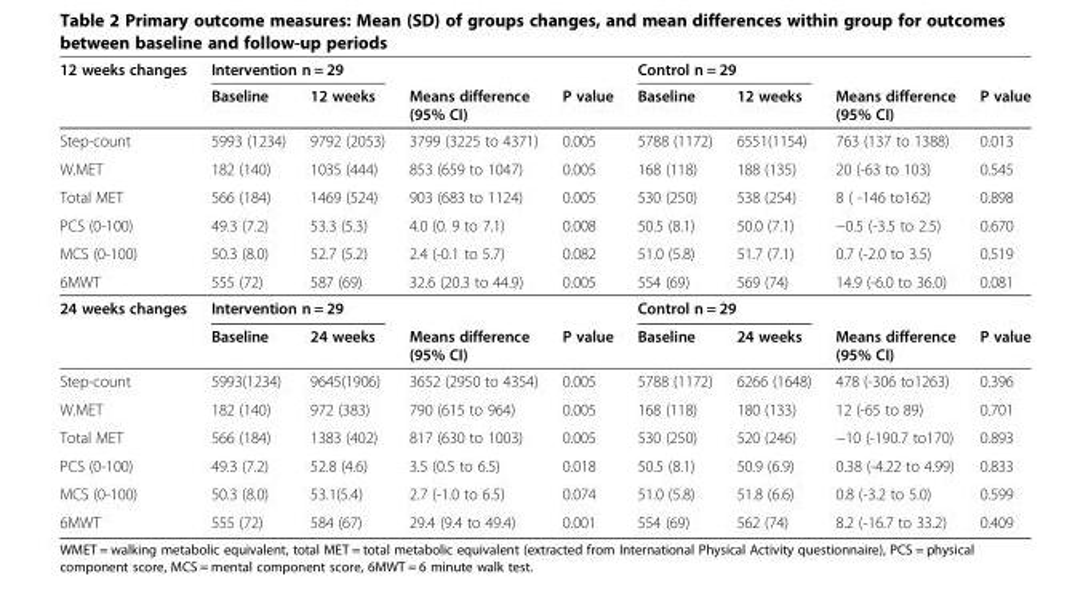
<table><thead><tr><td rowspan="2">12 weeks changes</td><td colspan="2">Intervention n = 29</td><td rowspan="2">Means difference (95% CI)</td><td rowspan="2">P value</td><td colspan="2">Control n = 29</td><td rowspan="2">Means difference (95% CI)</td><td rowspan="2">P value</td></tr><tr><td>Baseline</td><td>12 weeks</td><td>Baseline</td><td>12 weeks</td></tr></thead><tbody><tr><td>Step-count</td><td>5993 (1234)</td><td>9792 (2053)</td><td>3799 (3225 to 4371)</td><td>0.005</td><td>5788 (1172)</td><td>6551(1154)</td><td>763 (137 to 1388)</td><td>0.013</td></tr><tr><td>W.MET</td><td>182 (140)</td><td>1035 (444)</td><td>853 (659 to 1047)</td><td>0.005</td><td>168 (118)</td><td>188 (135)</td><td>20 (-63 to 103)</td><td>0.545</td></tr><tr><td>Total MET</td><td>566 (184)</td><td>1469 (524)</td><td>903 (683 to 1124)</td><td>0.005</td><td>530 (250)</td><td>538 (254)</td><td>8 ( -146 to162)</td><td>0.898</td></tr><tr><td>PCS (0-100)</td><td>49.3 (7.2)</td><td>53.3 (5.3)</td><td>4.0 (0. 9 to 7.1)</td><td>0.008</td><td>50.5 (8.1)</td><td>50.0 (7.1)</td><td>−0.5 (-3.5 to 2.5)</td><td>0.670</td></tr><tr><td>MCS (0-100)</td><td>50.3 (8.0)</td><td>52.7 (5.2)</td><td>2.4 (-0.1 to 5.7)</td><td>0.082</td><td>51.0 (5.8)</td><td>51.7 (7.1)</td><td>0.7 (-2.0 to 3.5)</td><td>0.519</td></tr><tr><td>6MWT</td><td>555 (72)</td><td>587 (69)</td><td>32.6 (20.3 to 44.9)</td><td>0.005</td><td>554 (69)</td><td>569 (74)</td><td>14.9 (-6.0 to 36.0)</td><td>0.081</td></tr><tr><td rowspan="2">24 weeks changes</td><td colspan="2">Intervention n = 29</td><td colspan="2"></td><td colspan="2">Control n = 29</td><td colspan="2"></td></tr><tr><td>Baseline</td><td>24 weeks</td><td>Means difference (95% CI)</td><td>P value</td><td>Baseline</td><td>24 weeks</td><td>Means difference (95% CI)</td><td>P value</td></tr><tr><td>Step-count</td><td>5993(1234)</td><td>9645(1906)</td><td>3652 (2950 to 4354)</td><td>0.005</td><td>5788 (1172)</td><td>6266 (1648)</td><td>478 (-306 to1263)</td><td>0.396</td></tr><tr><td>W.MET</td><td>182 (140)</td><td>972 (383)</td><td>790 (615 to 964)</td><td>0.005</td><td>168 (118)</td><td>180 (133)</td><td>12 (-65 to 89)</td><td>0.701</td></tr><tr><td>Total MET</td><td>566 (184)</td><td>1383 (402)</td><td>817 (630 to 1003)</td><td>0.005</td><td>530 (250)</td><td>520 (246)</td><td>−10 (-190.7 to170)</td><td>0.893</td></tr><tr><td>PCS (0-100)</td><td>49.3 (7.2)</td><td>52.8 (4.6)</td><td>3.5 (0.5 to 6.5)</td><td>0.018</td><td>50.5 (8.1)</td><td>50.9 (6.9)</td><td>0.38 (-4.22 to 4.99)</td><td>0.833</td></tr><tr><td>MCS (0-100)</td><td>50.3 (8.0)</td><td>53.1(5.4)</td><td>2.7 (-1.0 to 6.5)</td><td>0.074</td><td>51.0 (5.8)</td><td>51.8 (6.6)</td><td>0.8 (-3.2 to 5.0)</td><td>0.599</td></tr><tr><td>6MWT</td><td>555 (72)</td><td>584 (67)</td><td>29.4 (9.4 to 49.4)</td><td>0.001</td><td>554 (69)</td><td>562 (74)</td><td>8.2 (-16.7 to 33.2)</td><td>0.409</td></tr></tbody></table>